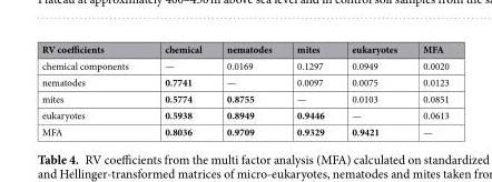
<table><thead><tr><td>RV coefficients</td><td>chemical</td><td>nematodes</td><td>mites</td><td>eukaryotes</td><td>MFA</td></tr></thead><tbody><tr><td>chemical components</td><td>—</td><td>0.0169</td><td>0.1297</td><td>0.0949</td><td>0.0020</td></tr><tr><td>nematodes</td><td>0.7741</td><td>—</td><td>0.0097</td><td>0.0075</td><td>0.0123</td></tr><tr><td>mites</td><td>0.5774</td><td>0.8755</td><td>—</td><td>0.0103</td><td>0.0851</td></tr><tr><td>eukaryotes</td><td>0.5938</td><td>0.8949</td><td>0.9446</td><td>—</td><td>0.0613</td></tr><tr><td>MFA</td><td>0.8036</td><td>0.9709</td><td>0.9329</td><td>0.9421</td><td>—</td></tr></tbody></table>